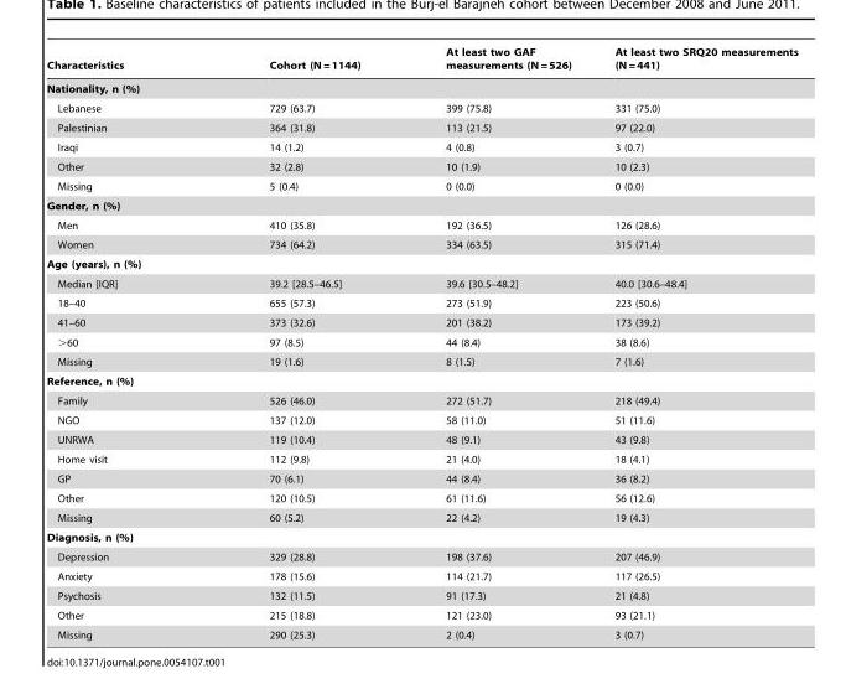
<table><thead><tr><td>Characteristics</td><td>Cohort (N = 1144)</td><td>At least two GAF measurements (N = 526)</td><td>At least two SRQ20 measurements (N = 441)</td></tr></thead><tbody><tr><td colspan="4">Nationality, n (%)</td></tr><tr><td>Lebanese</td><td>729 (63.7)</td><td>399 (75.8)</td><td>331 (75.0)</td></tr><tr><td>Palestinian</td><td>364 (31.8)</td><td>113 (21.5)</td><td>97 (22.0)</td></tr><tr><td>Iraqi</td><td>14 (1.2)</td><td>4 (0.8)</td><td>3 (0.7)</td></tr><tr><td>Other</td><td>32 (2.8)</td><td>10 (1.9)</td><td>10 (2.3)</td></tr><tr><td>Missing</td><td>5 (0.4)</td><td>0 (0.0)</td><td>0 (0.0)</td></tr><tr><td colspan="4">Gender, n (%)</td></tr><tr><td>Men</td><td>410 (35.8)</td><td>192 (36.5)</td><td>126 (28.6)</td></tr><tr><td>Women</td><td>734 (64.2)</td><td>334 (63.5)</td><td>315 (71.4)</td></tr><tr><td colspan="4">Age (years), n (%)</td></tr><tr><td>Median [IQR]</td><td>39.2 [28.5–46.5]</td><td>39.6 [30.5–48.2]</td><td>40.0 [30.6–48.4]</td></tr><tr><td>18–40</td><td>655 (57.3)</td><td>273 (51.9)</td><td>223 (50.6)</td></tr><tr><td>41–60</td><td>373 (32.6)</td><td>201 (38.2)</td><td>173 (39.2)</td></tr><tr><td>&gt;60</td><td>97 (8.5)</td><td>44 (8.4)</td><td>38 (8.6)</td></tr><tr><td>Missing</td><td>19 (1.6)</td><td>8 (1.5)</td><td>7 (1.6)</td></tr><tr><td colspan="4">Reference, n (%)</td></tr><tr><td>Family</td><td>526 (46.0)</td><td>272 (51.7)</td><td>218 (49.4)</td></tr><tr><td>NGO</td><td>137 (12.0)</td><td>58 (11.0)</td><td>51 (11.6)</td></tr><tr><td>UNRWA</td><td>119 (10.4)</td><td>48 (9.1)</td><td>43 (9.8)</td></tr><tr><td>Home visit</td><td>112 (9.8)</td><td>21 (4.0)</td><td>18 (4.1)</td></tr><tr><td>GP</td><td>70 (6.1)</td><td>44 (8.4)</td><td>36 (8.2)</td></tr><tr><td>Other</td><td>120 (10.5)</td><td>61 (11.6)</td><td>56 (12.6)</td></tr><tr><td>Missing</td><td>60 (5.2)</td><td>22 (4.2)</td><td>19 (4.3)</td></tr><tr><td colspan="4">Diagnosis, n (%)</td></tr><tr><td>Depression</td><td>329 (28.8)</td><td>198 (37.6)</td><td>207 (46.9)</td></tr><tr><td>Anxiety</td><td>178 (15.6)</td><td>114 (21.7)</td><td>117 (26.5)</td></tr><tr><td>Psychosis</td><td>132 (11.5)</td><td>91 (17.3)</td><td>21 (4.8)</td></tr><tr><td>Other</td><td>215 (18.8)</td><td>121 (23.0)</td><td>93 (21.1)</td></tr><tr><td>Missing</td><td>290 (25.3)</td><td>2 (0.4)</td><td>3 (0.7)</td></tr></tbody></table>